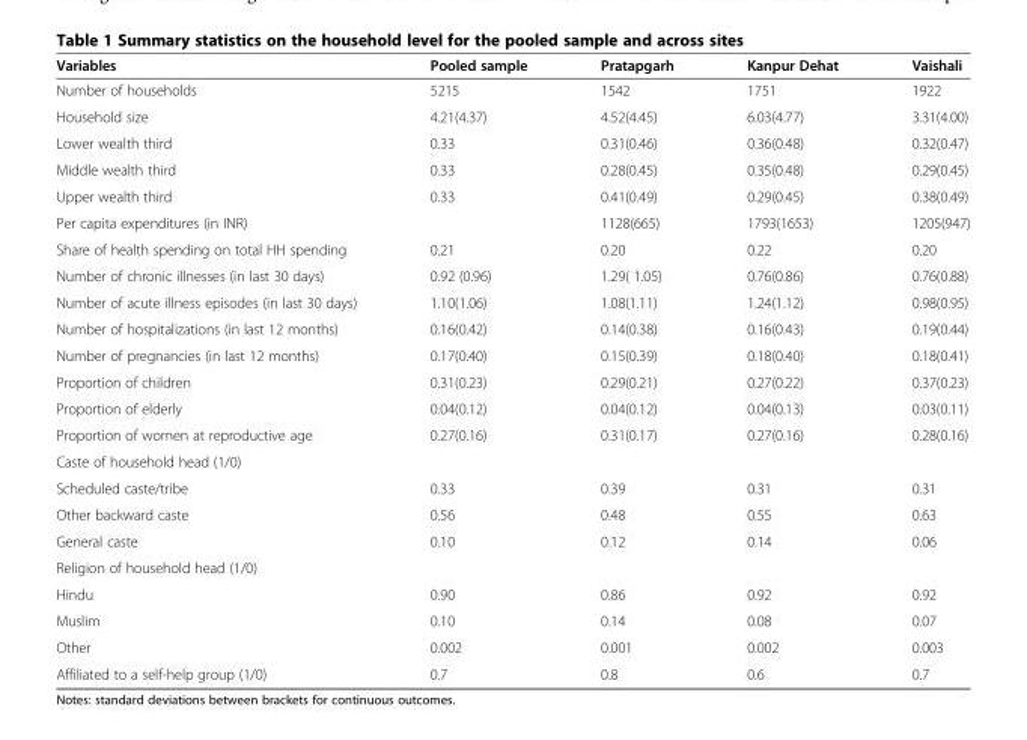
<table><thead><tr><td>Variables</td><td>Pooled sample</td><td>Pratapgarh</td><td>Kanpur Dehat</td><td>Vaishali</td></tr></thead><tbody><tr><td>Number of households</td><td>5215</td><td>1542</td><td>1751</td><td>1922</td></tr><tr><td>Household size</td><td>4.21(4.37)</td><td>4.52(4.45)</td><td>6.03(4.77)</td><td>3.31(4.00)</td></tr><tr><td>Lower wealth third</td><td>0.33</td><td>0.31(0.46)</td><td>0.36(0.48)</td><td>0.32(0.47)</td></tr><tr><td>Middle wealth third</td><td>0.33</td><td>0.28(0.45)</td><td>0.35(0.48)</td><td>0.29(0.45)</td></tr><tr><td>Upper wealth third</td><td>0.33</td><td>0.41(0.49)</td><td>0.29(0.45)</td><td>0.38(0.49)</td></tr><tr><td>Per capita expenditures (in INR)</td><td></td><td>1128(665)</td><td>1793(1653)</td><td>1205(947)</td></tr><tr><td>Share of health spending on total HH spending</td><td>0.21</td><td>0.20</td><td>0.22</td><td>0.20</td></tr><tr><td>Number of chronic illnesses (in last 30 days)</td><td>0.92 (0.96)</td><td>1.29( 1.05)</td><td>0.76(0.86)</td><td>0.76(0.88)</td></tr><tr><td>Number of acute illness episodes (in last 30 days)</td><td>1.10(1.06)</td><td>1.08(1.11)</td><td>1.24(1.12)</td><td>0.98(0.95)</td></tr><tr><td>Number of hospitalizations (in last 12 months)</td><td>0.16(0.42)</td><td>0.14(0.38)</td><td>0.16(0.43)</td><td>0.19(0.44)</td></tr><tr><td>Number of pregnancies (in last 12 months)</td><td>0.17(0.40)</td><td>0.15(0.39)</td><td>0.18(0.40)</td><td>0.18(0.41)</td></tr><tr><td>Proportion of children</td><td>0.31(0.23)</td><td>0.29(0.21)</td><td>0.27(0.22)</td><td>0.37(0.23)</td></tr><tr><td>Proportion of elderly</td><td>0.04(0.12)</td><td>0.04(0.12)</td><td>0.04(0.13)</td><td>0.03(0.11)</td></tr><tr><td>Proportion of women at reproductive age</td><td>0.27(0.16)</td><td>0.31(0.17)</td><td>0.27(0.16)</td><td>0.28(0.16)</td></tr><tr><td colspan="5">Caste of household head (1/0)</td></tr><tr><td>Scheduled caste/tribe</td><td>0.33</td><td>0.39</td><td>0.31</td><td>0.31</td></tr><tr><td>Other backward caste</td><td>0.56</td><td>0.48</td><td>0.55</td><td>0.63</td></tr><tr><td>General caste</td><td>0.10</td><td>0.12</td><td>0.14</td><td>0.06</td></tr><tr><td colspan="5">Religion of household head (1/0)</td></tr><tr><td>Hindu</td><td>0.90</td><td>0.86</td><td>0.92</td><td>0.92</td></tr><tr><td>Muslim</td><td>0.10</td><td>0.14</td><td>0.08</td><td>0.07</td></tr><tr><td>Other</td><td>0.002</td><td>0.001</td><td>0.002</td><td>0.003</td></tr><tr><td>Affiliated to a self-help group (1/0)</td><td>0.7</td><td>0.8</td><td>0.6</td><td>0.7</td></tr></tbody></table>